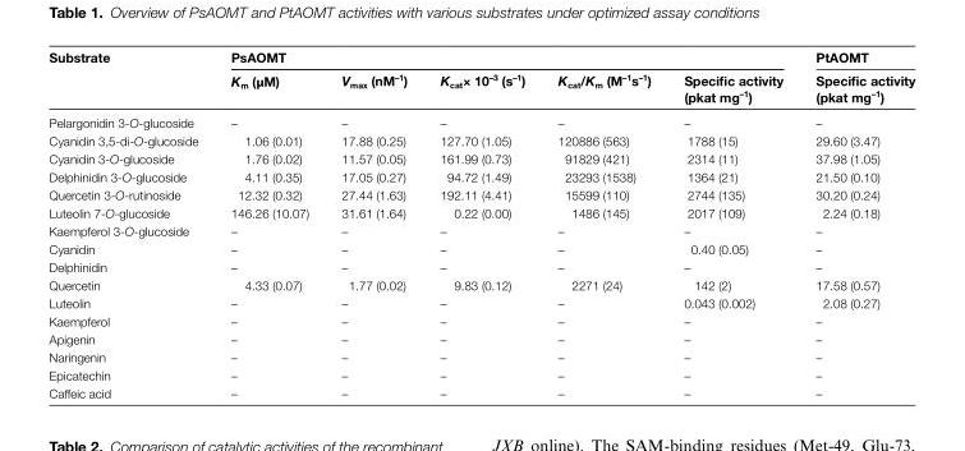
<table><thead><tr><td rowspan="2">Substrate</td><td colspan="5">PsAOMT</td><td rowspan="2">PtAOMT Specific activity (pkat mg<sup>–1</sup>)</td></tr><tr><td>K<sub>m</sub> (μM)</td><td>V<sub>max</sub> (nM<sup>–1</sup>)</td><td>K<sub>cat</sub>× 10<sup>–3</sup> (s<sup>–1</sup>)</td><td>K<sub>cat</sub>/K<sub>m</sub> (M<sup>–1</sup>s<sup>–1</sup>)</td><td>Specific activity (pkat mg<sup>–1</sup>)</td></tr></thead><tbody><tr><td>Pelargonidin 3-O-glucoside</td><td>–</td><td>–</td><td>–</td><td>–</td><td>–</td><td>–</td></tr><tr><td>Cyanidin 3,5-di-O-glucoside</td><td>1.06 (0.01)</td><td>17.88 (0.25)</td><td>127.70 (1.05)</td><td>120886 (563)</td><td>1788 (15)</td><td>29.60 (3.47)</td></tr><tr><td>Cyanidin 3-O-glucoside</td><td>1.76 (0.02)</td><td>11.57 (0.05)</td><td>161.99 (0.73)</td><td>91829 (421)</td><td>2314 (11)</td><td>37.98 (1.05)</td></tr><tr><td>Delphinidin 3-O-glucoside</td><td>4.11 (0.35)</td><td>17.05 (0.27)</td><td>94.72 (1.49)</td><td>23293 (1538)</td><td>1364 (21)</td><td>21.50 (0.10)</td></tr><tr><td>Quercetin 3-O-rutinoside</td><td>12.32 (0.32)</td><td>27.44 (1.63)</td><td>192.11 (4.41)</td><td>15599 (110)</td><td>2744 (135)</td><td>30.20 (0.24)</td></tr><tr><td>Luteolin 7-O-glucoside</td><td>146.26 (10.07)</td><td>31.61 (1.64)</td><td>0.22 (0.00)</td><td>1486 (145)</td><td>2017 (109)</td><td>2.24 (0.18)</td></tr><tr><td>Kaempferol 3-O-glucoside</td><td>–</td><td>–</td><td>–</td><td>–</td><td>–</td><td>–</td></tr><tr><td>Cyanidin</td><td>–</td><td>–</td><td>–</td><td>–</td><td>0.40 (0.05)</td><td>–</td></tr><tr><td>Delphinidin</td><td>–</td><td>–</td><td>–</td><td>–</td><td>–</td><td>–</td></tr><tr><td>Quercetin</td><td>4.33 (0.07)</td><td>1.77 (0.02)</td><td>9.83 (0.12)</td><td>2271 (24)</td><td>142 (2)</td><td>17.58 (0.57)</td></tr><tr><td>Luteolin</td><td>–</td><td>–</td><td>–</td><td>–</td><td>0.043 (0.002)</td><td>2.08 (0.27)</td></tr><tr><td>Kaempferol</td><td>–</td><td>–</td><td>–</td><td>–</td><td>–</td><td>–</td></tr><tr><td>Apigenin</td><td>–</td><td>–</td><td>–</td><td>–</td><td>–</td><td>–</td></tr><tr><td>Naringenin</td><td>–</td><td>–</td><td>–</td><td>–</td><td>–</td><td>–</td></tr><tr><td>Epicatechin</td><td>–</td><td>–</td><td>–</td><td>–</td><td>–</td><td>–</td></tr><tr><td>Caffeic acid</td><td>–</td><td>–</td><td>–</td><td>–</td><td>–</td><td>–</td></tr></tbody></table>